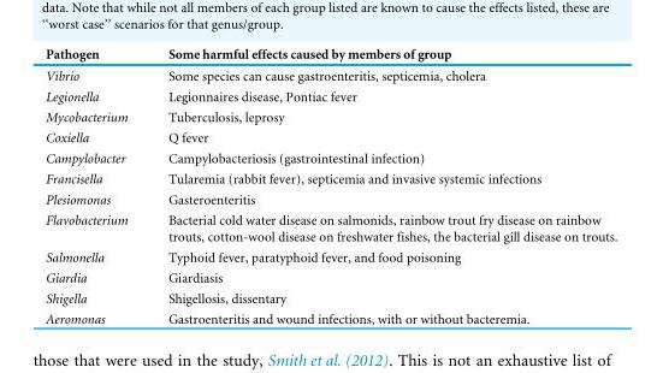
<table><thead><tr><td>Pathogen</td><td>Some harmful effects caused by members of group</td></tr></thead><tbody><tr><td>Vibrio</td><td>Some species can cause gastroenteritis, septicemia, cholera</td></tr><tr><td>Legionella</td><td>Legionnaires disease, Pontiac fever</td></tr><tr><td>Mycobacterium</td><td>Tuberculosis, leprosy</td></tr><tr><td>Coxiella</td><td>Q fever</td></tr><tr><td>Campylobacter</td><td>Campylobacteriosis (gastrointestinal infection)</td></tr><tr><td>Francisella</td><td>Tularemia (rabbit fever), septicemia and invasive systemic infections</td></tr><tr><td>Plesiomonas</td><td>Gasteroenteritis</td></tr><tr><td>Flavobacterium</td><td>Bacterial cold water disease on salmonids, rainbow trout fry disease on rainbow trouts, cotton-wool disease on freshwater fishes, the bacterial gill disease on trouts.</td></tr><tr><td>Salmonella</td><td>Typhoid fever, paratyphoid fever, and food poisoning</td></tr><tr><td>Giardia</td><td>Giardiasis</td></tr><tr><td>Shigella</td><td>Shigellosis, dissentary</td></tr><tr><td>Aeromonas</td><td>Gastroenteritis and wound infections, with or without bacteremia.</td></tr></tbody></table>